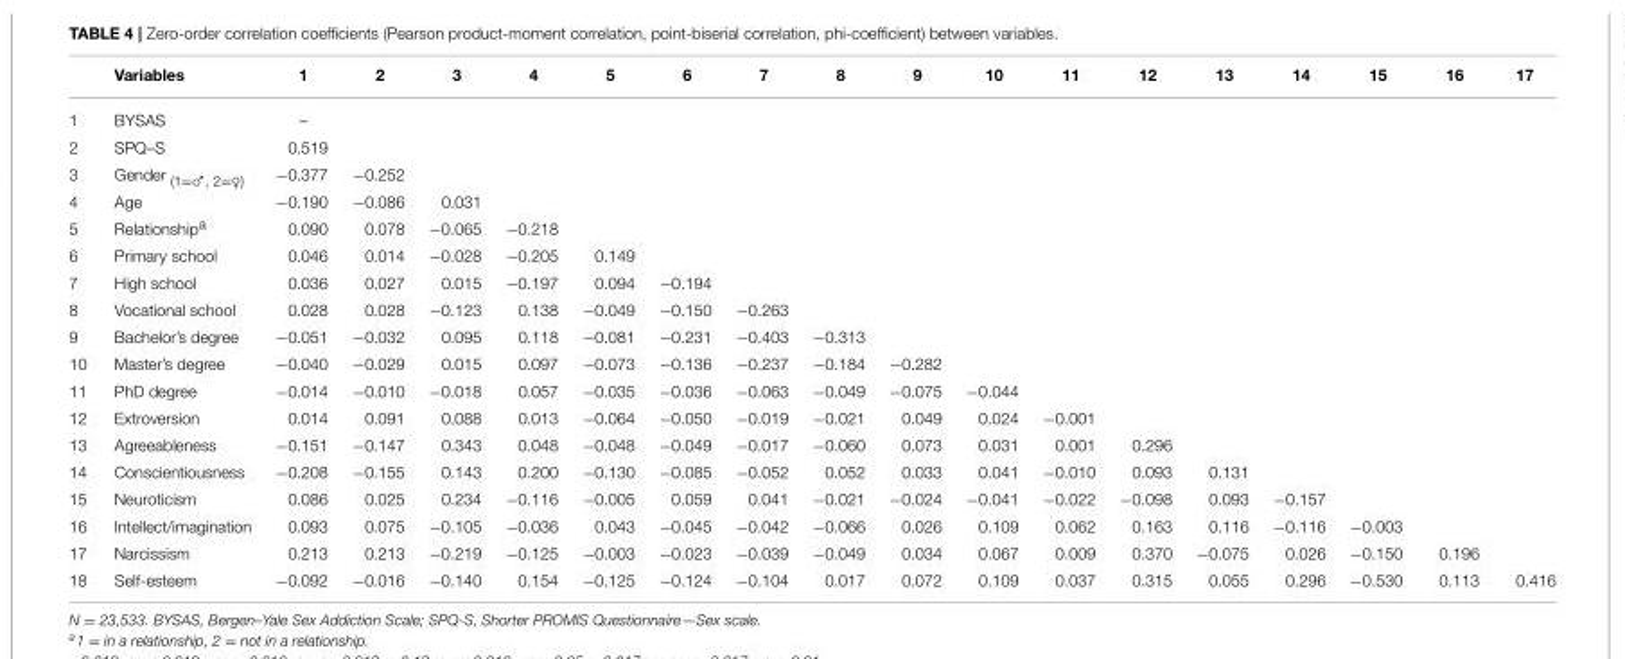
<table><thead><tr><td></td><td>Variables</td><td>1</td><td>2</td><td>3</td><td>4</td><td>5</td><td>6</td><td>7</td><td>8</td><td>9</td><td>10</td><td>11</td><td>12</td><td>13</td><td>14</td><td>15</td><td>16</td><td>17</td></tr></thead><tbody><tr><td>1</td><td>BYSAS</td><td>–</td><td></td><td></td><td></td><td></td><td></td><td></td><td></td><td></td><td></td><td></td><td></td><td></td><td></td><td></td><td></td><td></td></tr><tr><td>2</td><td>SPQ–S</td><td>0.519</td><td></td><td></td><td></td><td></td><td></td><td></td><td></td><td></td><td></td><td></td><td></td><td></td><td></td><td></td><td></td><td></td></tr><tr><td>3</td><td>Gender <sub>(1=♂, 2=♀)</sub></td><td>−0.377</td><td>−0.252</td><td></td><td></td><td></td><td></td><td></td><td></td><td></td><td></td><td></td><td></td><td></td><td></td><td></td><td></td><td></td></tr><tr><td>4</td><td>Age</td><td>−0.190</td><td>−0.086</td><td>0.031</td><td></td><td></td><td></td><td></td><td></td><td></td><td></td><td></td><td></td><td></td><td></td><td></td><td></td><td></td></tr><tr><td>5</td><td>Relationship<sup>a</sup></td><td>0.090</td><td>0.078</td><td>−0.065</td><td>−0.218</td><td></td><td></td><td></td><td></td><td></td><td></td><td></td><td></td><td></td><td></td><td></td><td></td><td></td></tr><tr><td>6</td><td>Primary school</td><td>0.046</td><td>0.014</td><td>−0.028</td><td>−0.205</td><td>0.149</td><td></td><td></td><td></td><td></td><td></td><td></td><td></td><td></td><td></td><td></td><td></td><td></td></tr><tr><td>7</td><td>High school</td><td>0.036</td><td>0.027</td><td>0.015</td><td>−0.197</td><td>0.094</td><td>−0.194</td><td></td><td></td><td></td><td></td><td></td><td></td><td></td><td></td><td></td><td></td><td></td></tr><tr><td>8</td><td>Vocational school</td><td>0.028</td><td>0.028</td><td>−0.123</td><td>0.138</td><td>−0.049</td><td>−0.150</td><td>−0.263</td><td></td><td></td><td></td><td></td><td></td><td></td><td></td><td></td><td></td><td></td></tr><tr><td>9</td><td>Bachelor’s degree</td><td>−0.051</td><td>−0.032</td><td>0.095</td><td>0.118</td><td>−0.081</td><td>−0.231</td><td>−0.403</td><td>−0.313</td><td></td><td></td><td></td><td></td><td></td><td></td><td></td><td></td><td></td></tr><tr><td>10</td><td>Master’s degree</td><td>−0.040</td><td>−0.029</td><td>0.015</td><td>0.097</td><td>−0.073</td><td>−0.136</td><td>−0.237</td><td>−0.184</td><td>−0.282</td><td></td><td></td><td></td><td></td><td></td><td></td><td></td><td></td></tr><tr><td>11</td><td>PhD degree</td><td>−0.014</td><td>−0.010</td><td>−0.018</td><td>0.057</td><td>−0.035</td><td>−0.036</td><td>−0.063</td><td>−0.049</td><td>−0.075</td><td>−0.044</td><td></td><td></td><td></td><td></td><td></td><td></td><td></td></tr><tr><td>12</td><td>Extroversion</td><td>0.014</td><td>0.091</td><td>0.088</td><td>0.013</td><td>−0.064</td><td>−0.050</td><td>−0.019</td><td>−0.021</td><td>0.049</td><td>0.024</td><td>−0.001</td><td></td><td></td><td></td><td></td><td></td><td></td></tr><tr><td>13</td><td>Agreeableness</td><td>−0.151</td><td>−0.147</td><td>0.343</td><td>0.048</td><td>−0.048</td><td>−0.049</td><td>−0.017</td><td>−0.060</td><td>0.073</td><td>0.031</td><td>0.001</td><td>0.296</td><td></td><td></td><td></td><td></td><td></td></tr><tr><td>14</td><td>Conscientiousness</td><td>−0.208</td><td>−0.155</td><td>0.143</td><td>0.200</td><td>−0.130</td><td>−0.085</td><td>−0.052</td><td>0.052</td><td>0.033</td><td>0.041</td><td>−0.010</td><td>0.093</td><td>0.131</td><td></td><td></td><td></td><td></td></tr><tr><td>15</td><td>Neuroticism</td><td>0.086</td><td>0.025</td><td>0.234</td><td>−0.116</td><td>−0.005</td><td>0.059</td><td>0.041</td><td>−0.021</td><td>−0.024</td><td>−0.041</td><td>−0.022</td><td>−0.098</td><td>0.093</td><td>−0.157</td><td></td><td></td><td></td></tr><tr><td>16</td><td>Intellect/imagination</td><td>0.093</td><td>0.075</td><td>−0.105</td><td>−0.036</td><td>0.043</td><td>−0.045</td><td>−0.042</td><td>−0.066</td><td>0.026</td><td>0.109</td><td>0.062</td><td>0.163</td><td>0.116</td><td>−0.116</td><td>−0.003</td><td></td><td></td></tr><tr><td>17</td><td>Narcissism</td><td>0.213</td><td>0.213</td><td>−0.219</td><td>−0.125</td><td>−0.003</td><td>−0.023</td><td>−0.039</td><td>−0.049</td><td>0.034</td><td>0.067</td><td>0.009</td><td>0.370</td><td>−0.075</td><td>0.026</td><td>−0.150</td><td>0.196</td><td></td></tr><tr><td>18</td><td>Self-esteem</td><td>−0.092</td><td>−0.016</td><td>−0.140</td><td>0.154</td><td>−0.125</td><td>−0.124</td><td>−0.104</td><td>0.017</td><td>0.072</td><td>0.109</td><td>0.037</td><td>0.315</td><td>0.055</td><td>0.296</td><td>−0.530</td><td>0.113</td><td>0.416</td></tr></tbody></table>